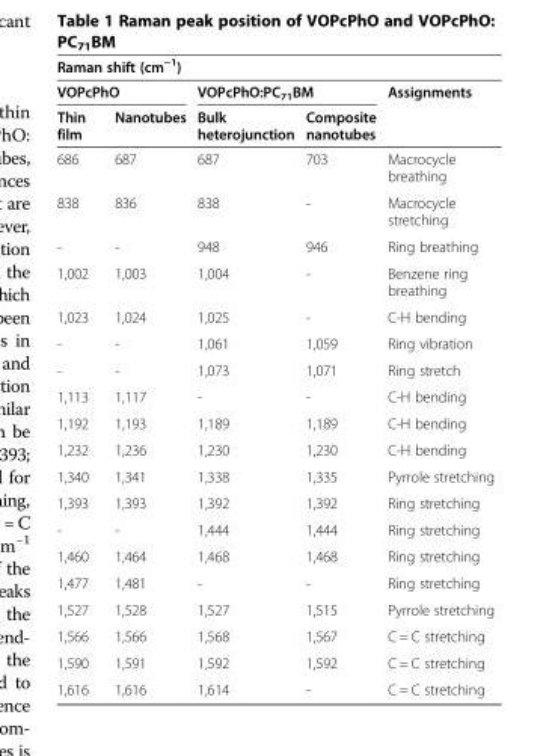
<table><thead><tr><td colspan="5">Raman shift (cm<sup>−1</sup>)</td></tr><tr><td colspan="2">VOPcPhO</td><td colspan="2">VOPcPhO:PC<sub>71</sub>BM</td><td rowspan="2">Assignments</td></tr><tr><td>Thin film</td><td>Nanotubes</td><td>Bulk heterojunction</td><td>Composite nanotubes</td></tr></thead><tbody><tr><td>686</td><td>687</td><td>687</td><td>703</td><td>Macrocycle breathing</td></tr><tr><td>838</td><td>836</td><td>838</td><td>-</td><td>Macrocycle stretching</td></tr><tr><td>-</td><td>-</td><td>948</td><td>946</td><td>Ring breathing</td></tr><tr><td>1,002</td><td>1,003</td><td>1,004</td><td>-</td><td>Benzene ring breathing</td></tr><tr><td>1,023</td><td>1,024</td><td>1,025</td><td>-</td><td>C-H bending</td></tr><tr><td>-</td><td>-</td><td>1,061</td><td>1,059</td><td>Ring vibration</td></tr><tr><td>-</td><td>-</td><td>1,073</td><td>1,071</td><td>Ring stretch</td></tr><tr><td>1,113</td><td>1,117</td><td>-</td><td>-</td><td>C-H bending</td></tr><tr><td>1,192</td><td>1,193</td><td>1,189</td><td>1,189</td><td>C-H bending</td></tr><tr><td>1,232</td><td>1,236</td><td>1,230</td><td>1,230</td><td>C-H bending</td></tr><tr><td>1,340</td><td>1,341</td><td>1,338</td><td>1,335</td><td>Pyrrole stretching</td></tr><tr><td>1,393</td><td>1,393</td><td>1,392</td><td>1,392</td><td>Ring stretching</td></tr><tr><td>-</td><td>-</td><td>1,444</td><td>1,444</td><td>Ring stretching</td></tr><tr><td>1,460</td><td>1,464</td><td>1,468</td><td>1,468</td><td>Ring stretching</td></tr><tr><td>1,477</td><td>1,481</td><td>-</td><td>-</td><td>Ring stretching</td></tr><tr><td>1,527</td><td>1,528</td><td>1,527</td><td>1,515</td><td>Pyrrole stretching</td></tr><tr><td>1,566</td><td>1,566</td><td>1,568</td><td>1,567</td><td>C = C stretching</td></tr><tr><td>1,590</td><td>1,591</td><td>1,592</td><td>1,592</td><td>C = C stretching</td></tr><tr><td>1,616</td><td>1,616</td><td>1,614</td><td>-</td><td>C = C stretching</td></tr></tbody></table>